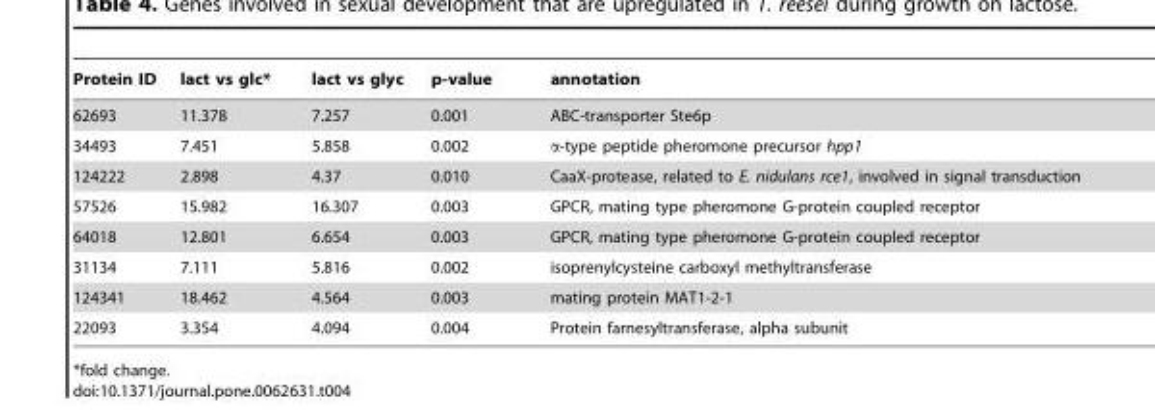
<table><thead><tr><td>Protein ID</td><td>lact vs glc*</td><td>lact vs glyc</td><td>p-value</td><td>annotation</td></tr></thead><tbody><tr><td>62693</td><td>11.378</td><td>7.257</td><td>0.001</td><td>ABC-transporter Ste6p</td></tr><tr><td>34493</td><td>7.451</td><td>5.858</td><td>0.002</td><td>α-type peptide pheromone precursor hpp1</td></tr><tr><td>124222</td><td>2.898</td><td>4.37</td><td>0.010</td><td>CaaX-protease, related to E. nidulans rce1, involved in signal transduction</td></tr><tr><td>57526</td><td>15.982</td><td>16.307</td><td>0.003</td><td>GPCR, mating type pheromone G-protein coupled receptor</td></tr><tr><td>64018</td><td>12.801</td><td>6.654</td><td>0.003</td><td>GPCR, mating type pheromone G-protein coupled receptor</td></tr><tr><td>31134</td><td>7.111</td><td>5.816</td><td>0.002</td><td>isoprenylcysteine carboxyl methyltransferase</td></tr><tr><td>124341</td><td>18.462</td><td>4.564</td><td>0.003</td><td>mating protein MAT1-2-1</td></tr><tr><td>22093</td><td>3.354</td><td>4.094</td><td>0.004</td><td>Protein farnesyltransferase, alpha subunit</td></tr></tbody></table>